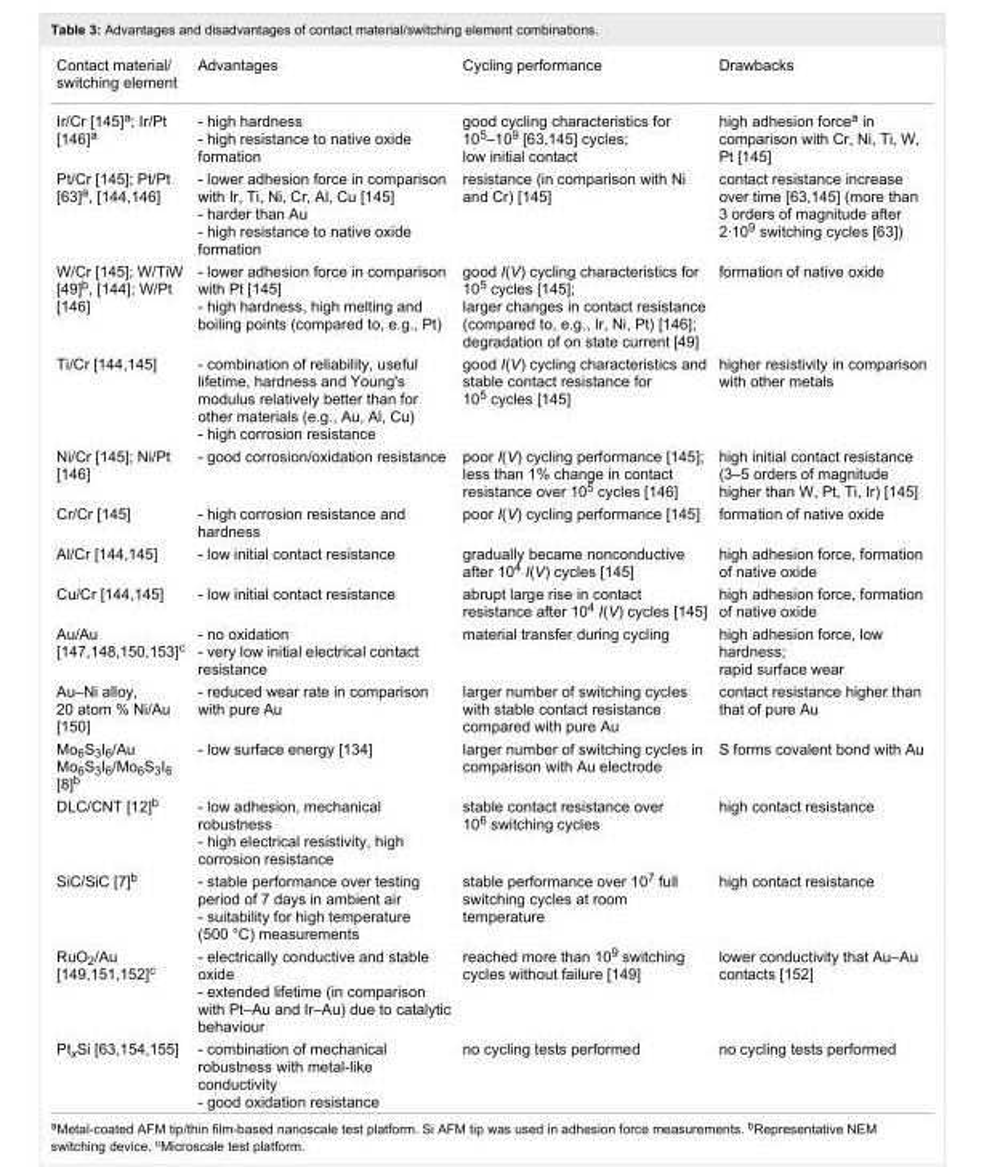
<table><tbody><tr><td>Contact material/ switching element</td><td>Advantages</td><td>Cycling performance</td><td>Drawbacks</td></tr><tr><td>Ir/Cr [145]<sup>a</sup>; Ir/Pt [146]<sup>a</sup></td><td>- high hardness - high resistance to native oxide formation</td><td>good cycling characteristics for 10<sup>5</sup>–10<sup>9</sup> [63,145] cycles; low initial contact</td><td>high adhesion force<sup>a</sup> in comparison with Cr, Ni, Ti, W, Pt [145]</td></tr><tr><td>Pt/Cr [145]; Pt/Pt [63]<sup>a</sup>, [144,146]</td><td>- lower adhesion force in comparison with Ir, Ti, Ni, Cr, Al, Cu [145] - harder than Au - high resistance to native oxide formation</td><td>resistance (in comparison with Ni and Cr) [145]</td><td>contact resistance increase over time [63,145] (more than 3 orders of magnitude after 2·10<sup>9</sup> switching cycles [63])</td></tr><tr><td>W/Cr [145]; W/TiW [49]<sup>b</sup>, [144]; W/Pt [146]</td><td>- lower adhesion force in comparison with Pt [145] - high hardness, high melting and boiling points (compared to, e.g., Pt)</td><td>good I(V) cycling characteristics for 10<sup>5</sup> cycles [145]; larger changes in contact resistance (compared to, e.g., Ir, Ni, Pt) [146]; degradation of on state current [49]</td><td>formation of native oxide</td></tr><tr><td>Ti/Cr [144–145]</td><td>- combination of reliability, useful lifetime, hardness and Young&#x27;s modulus relatively better than for other materials (e.g., Au, Al, Cu) - high corrosion resistance</td><td>good I(V) cycling characteristics and stable contact resistance for 10<sup>5</sup> cycles [145]</td><td>higher resistivity in comparison with other metals</td></tr><tr><td>Ni/Cr [145]; Ni/Pt [146]</td><td>- good corrosion/oxidation resistance</td><td>poor I(V) cycling performance [145]; less than 1% change in contact resistance over 10<sup>5</sup> cycles [146]</td><td>high initial contact resistance (3–5 orders of magnitude higher than W, Pt, Ti, Ir) [145]</td></tr><tr><td>Cr/Cr [145]</td><td>- high corrosion resistance and hardness</td><td>poor I(V) cycling performance [145]</td><td>formation of native oxide</td></tr><tr><td>Al/Cr [144–145]</td><td>- low initial contact resistance</td><td>gradually became nonconductive after 10<sup>4</sup> I(V) cycles [145]</td><td>high adhesion force, formation of native oxide</td></tr><tr><td>Cu/Cr [144–145]</td><td>- low initial contact resistance</td><td>abrupt large rise in contact resistance after 10<sup>4</sup> I(V) cycles [145]</td><td>high adhesion force, formation of native oxide</td></tr><tr><td>Au/Au [147,148,150,153]c</td><td>- no oxidation - very low initial electrical contact resistance</td><td>material transfer during cycling</td><td>high adhesion force, low hardness; rapid surface wear</td></tr><tr><td>Au–Ni alloy, 20 atom % Ni/Au [150]</td><td>- reduced wear rate in comparison with pure Au</td><td>larger number of switching cycles with stable contact resistance compared with pure Au</td><td>contact resistance higher than that of pure Au</td></tr><tr><td>Mo<sub>6</sub>S<sub>3</sub>I<sub>6</sub>/Au Mo<sub>6</sub>S<sub>3</sub>I<sub>6</sub>/Mo<sub>6</sub>S<sub>3</sub>I<sub>6</sub> [8]<sup>b</sup></td><td>- low surface energy [134]</td><td>larger number of switching cycles in comparison with Au electrode</td><td>S forms covalent bond with Au</td></tr><tr><td>DLC/CNT [12]<sup>b</sup></td><td>- low adhesion, mechanical robustness - high electrical resistivity, high corrosion resistance</td><td>stable contact resistance over 10<sup>6</sup> switching cycles</td><td>high contact resistance</td></tr><tr><td>SiC/SiC [7]<sup>b</sup></td><td>- stable performance over testing period of 7 days in ambient air - suitability for high temperature (500 °C) measurements</td><td>stable performance over 10<sup>7</sup> full switching cycles at room temperature</td><td>high contact resistance</td></tr><tr><td>RuO<sub>2</sub>/Au [149,151–152]<sup>c</sup></td><td>- electrically conductive and stable oxide - extended lifetime (in comparison with Pt–Au and Ir–Au) due to catalytic behaviour</td><td>reached more than 10<sup>9</sup> switching cycles without failure [149]</td><td>lower conductivity that Au–Au contacts [152]</td></tr><tr><td>Pt<sub>x</sub>Si [63,154–155]</td><td>- combination of mechanical robustness with metal-like conductivity - good oxidation resistance</td><td>no cycling tests performed</td><td>no cycling tests performed</td></tr></tbody></table>